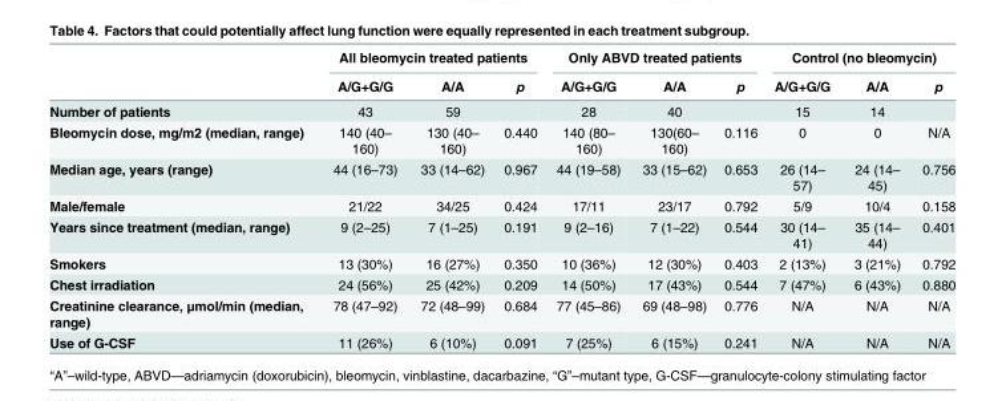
<table><thead><tr><td rowspan="2"></td><td colspan="3">All bleomycin treated patients</td><td colspan="3">Only ABVD treated patients</td><td colspan="3">Control (no bleomycin)</td></tr><tr><td>A/G+G/G</td><td>A/A</td><td>p</td><td>A/G+G/G</td><td>A/A</td><td>p</td><td>A/G+G/G</td><td>A/A</td><td>p</td></tr></thead><tbody><tr><td>Number of patients</td><td>43</td><td>59</td><td></td><td>28</td><td>40</td><td></td><td>15</td><td>14</td><td></td></tr><tr><td>Bleomycin dose, mg/m2 (median, range)</td><td>140 (40– 160)</td><td>130 (40– 160)</td><td>0.440</td><td>140 (80– 160)</td><td>130(60– 160)</td><td>0.116</td><td>0</td><td>0</td><td>N/A</td></tr><tr><td>Median age, years (range)</td><td>44 (16–73)</td><td>33 (14–62)</td><td>0.967</td><td>44 (19–58)</td><td>33 (15–62)</td><td>0.653</td><td>26 (14– 57)</td><td>24 (14– 45)</td><td>0.756</td></tr><tr><td>Male/female</td><td>21/22</td><td>34/25</td><td>0.424</td><td>17/11</td><td>23/17</td><td>0.792</td><td>5/9</td><td>10/4</td><td>0.158</td></tr><tr><td>Years since treatment (median, range)</td><td>9 (2–25)</td><td>7 (1–25)</td><td>0.191</td><td>9 (2–16)</td><td>7 (1–22)</td><td>0.544</td><td>30 (14– 41)</td><td>35 (14– 44)</td><td>0.401</td></tr><tr><td>Smokers</td><td>13 (30%)</td><td>16 (27%)</td><td>0.350</td><td>10 (36%)</td><td>12 (30%)</td><td>0.403</td><td>2 (13%)</td><td>3 (21%)</td><td>0.792</td></tr><tr><td>Chest irradiation</td><td>24 (56%)</td><td>25 (42%)</td><td>0.209</td><td>14 (50%)</td><td>17 (43%)</td><td>0.544</td><td>7 (47%)</td><td>6 (43%)</td><td>0.880</td></tr><tr><td>Creatinine clearance, μmol/min (median, range)</td><td>78 (47–92)</td><td>72 (48–99)</td><td>0.684</td><td>77 (45–86)</td><td>69 (48–98)</td><td>0.776</td><td>N/A</td><td>N/A</td><td>N/A</td></tr><tr><td>Use of G-CSF</td><td>11 (26%)</td><td>6 (10%)</td><td>0.091</td><td>7 (25%)</td><td>6 (15%)</td><td>0.241</td><td>N/A</td><td>N/A</td><td>N/A</td></tr></tbody></table>